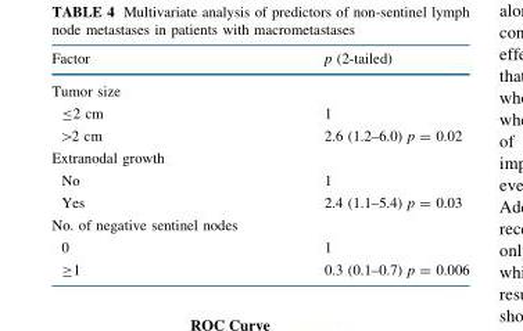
<table><thead><tr><td>Factor</td><td>p (2-tailed)</td></tr></thead><tbody><tr><td colspan="2">Tumor size</td></tr><tr><td>≤2 cm</td><td>1</td></tr><tr><td>&gt;2 cm</td><td>2.6 (1.2–6.0) p = 0.02</td></tr><tr><td colspan="2">Extranodal growth</td></tr><tr><td>No</td><td>1</td></tr><tr><td>Yes</td><td>2.4 (1.1–5.4) p = 0.03</td></tr><tr><td colspan="2">No. of negative sentinel nodes</td></tr><tr><td>0</td><td>1</td></tr><tr><td>≥1</td><td>0.3 (0.1–0.7) p = 0.006</td></tr></tbody></table>